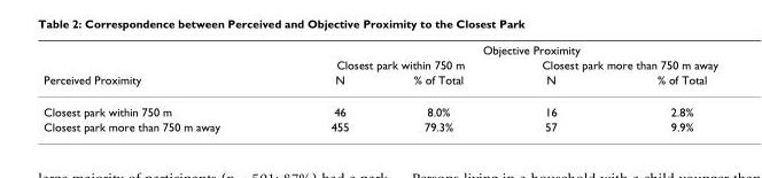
<table><thead><tr><td rowspan="3">Perceived Proximity</td><td colspan="4">Objective Proximity</td></tr><tr><td colspan="2">Closest park within 750 m</td><td colspan="2">Closest park more than 750 m away</td></tr><tr><td>N</td><td>% of Total</td><td>N</td><td>% of Total</td></tr></thead><tbody><tr><td>Closest park within 750 m</td><td>46</td><td>8.0%</td><td>16</td><td>2.8%</td></tr><tr><td>Closest park more than 750 m away</td><td>455</td><td>79.3%</td><td>57</td><td>9.9%</td></tr></tbody></table>